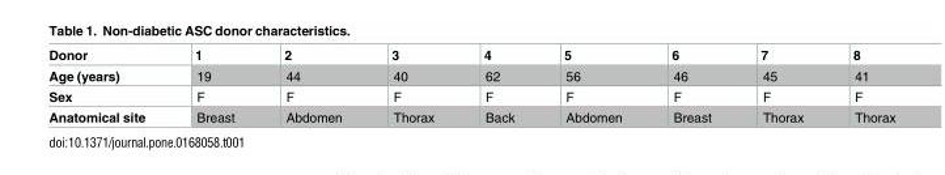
<table><thead><tr><td>Donor</td><td>1</td><td>2</td><td>3</td><td>4</td><td>5</td><td>6</td><td>7</td><td>8</td></tr></thead><tbody><tr><td>Age (years)</td><td>19</td><td>44</td><td>40</td><td>62</td><td>56</td><td>46</td><td>45</td><td>41</td></tr><tr><td>Sex</td><td>F</td><td>F</td><td>F</td><td>F</td><td>F</td><td>F</td><td>F</td><td>F</td></tr><tr><td>Anatomical site</td><td>Breast</td><td>Abdomen</td><td>Thorax</td><td>Back</td><td>Abdomen</td><td>Breast</td><td>Thorax</td><td>Thorax</td></tr></tbody></table>